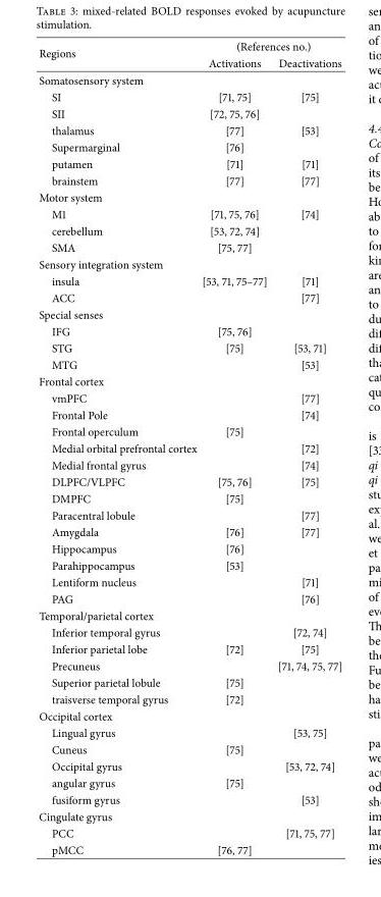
<table><thead><tr><td rowspan="2">Regions</td><td colspan="2">(References no.)</td></tr><tr><td>Activations</td><td>Deactivations</td></tr></thead><tbody><tr><td colspan="3">Somatosensory system</td></tr><tr><td>SI</td><td>[71, 75]</td><td>[75]</td></tr><tr><td>SII</td><td>[72, 75, 76]</td><td></td></tr><tr><td>thalamus</td><td>[77]</td><td>[53]</td></tr><tr><td>Supermarginal</td><td>[76]</td><td></td></tr><tr><td>putamen</td><td>[71]</td><td>[71]</td></tr><tr><td>brainstem</td><td>[77]</td><td>[77]</td></tr><tr><td colspan="3">Motor system</td></tr><tr><td>M1</td><td>[71, 75, 76]</td><td>[74]</td></tr><tr><td>cerebellum</td><td>[53, 72, 74]</td><td></td></tr><tr><td>SMA</td><td>[75, 77]</td><td></td></tr><tr><td colspan="3">Sensory integration system</td></tr><tr><td>insula</td><td>[53, 71, 75–77]</td><td>[71]</td></tr><tr><td>ACC</td><td></td><td>[77]</td></tr><tr><td colspan="3">Special senses</td></tr><tr><td>IFG</td><td>[75, 76]</td><td></td></tr><tr><td>STG</td><td>[75]</td><td>[53, 71]</td></tr><tr><td>MTG</td><td></td><td>[53]</td></tr><tr><td colspan="3">Frontal cortex</td></tr><tr><td>vmPFC</td><td></td><td>[77]</td></tr><tr><td>Frontal Pole</td><td></td><td>[74]</td></tr><tr><td>Frontal operculum</td><td>[75]</td><td></td></tr><tr><td>Medial orbital prefrontal cortex</td><td></td><td>[72]</td></tr><tr><td>Medial frontal gyrus</td><td></td><td>[74]</td></tr><tr><td>DLPFC/VLPFC</td><td>[75, 76]</td><td>[75]</td></tr><tr><td>DMPFC</td><td>[75]</td><td></td></tr><tr><td>Paracentral lobule</td><td></td><td>[77]</td></tr><tr><td>Amygdala</td><td>[76]</td><td>[77]</td></tr><tr><td>Hippocampus</td><td>[76]</td><td></td></tr><tr><td>Parahippocampus</td><td>[53]</td><td></td></tr><tr><td>Lentiform nucleus</td><td></td><td>[71]</td></tr><tr><td>PAG</td><td></td><td>[76]</td></tr><tr><td colspan="3">Temporal/parietal cortex</td></tr><tr><td>Inferior temporal gyrus</td><td></td><td>[72, 74]</td></tr><tr><td>Inferior parietal lobe</td><td>[72]</td><td>[75]</td></tr><tr><td>Precuneus</td><td></td><td>[71, 74, 75, 77]</td></tr><tr><td>Superior parietal lobule</td><td>[75]</td><td></td></tr><tr><td>traisverse temporal gyrus</td><td>[72]</td><td></td></tr><tr><td colspan="3">Occipital cortex</td></tr><tr><td>Lingual gyrus</td><td></td><td>[53, 75]</td></tr><tr><td>Cuneus</td><td>[75]</td><td></td></tr><tr><td>Occipital gyrus</td><td></td><td>[53, 72, 74]</td></tr><tr><td>angular gyrus</td><td>[75]</td><td></td></tr><tr><td>fusiform gyrus</td><td></td><td>[53]</td></tr><tr><td colspan="3">Cingulate gyrus</td></tr><tr><td>PCC</td><td></td><td>[71, 75, 77]</td></tr><tr><td>pMCC</td><td>[76, 77]</td><td></td></tr></tbody></table>